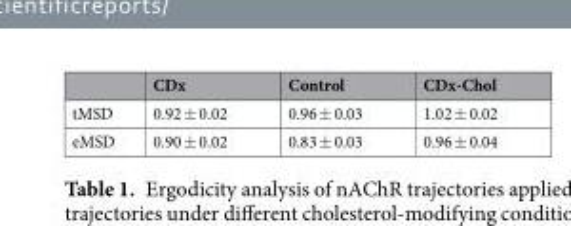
<table><thead><tr><td></td><td>CDx</td><td>Control</td><td>CDx-Chol</td></tr></thead><tbody><tr><td>tMSD</td><td>0.92 ± 0.02</td><td>0.96 ± 0.03</td><td>1.02 ± 0.02</td></tr><tr><td>eMSD</td><td>0.90 ± 0.02</td><td>0.83 ± 0.03</td><td>0.96 ± 0.04</td></tr></tbody></table>